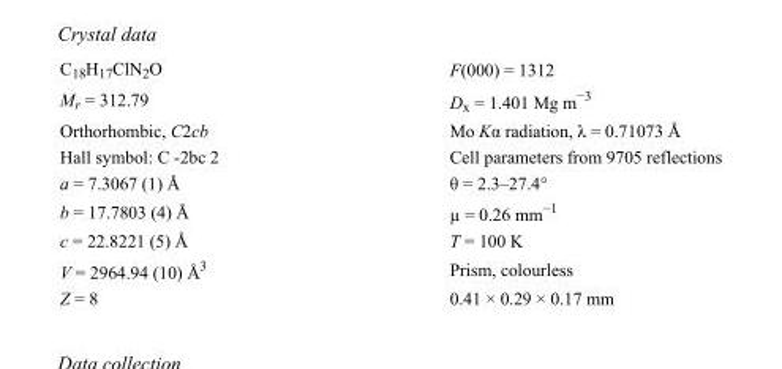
<table><tbody><tr><td>C<sub>18</sub>H<sub>17</sub>ClN<sub>2</sub>O</td><td>F(000) = 1312</td></tr><tr><td>M<sub>r</sub> = 312.79</td><td>D<sub>x</sub> = 1.401 Mg m<sup>−3</sup></td></tr><tr><td>Orthorhombic, C2cb</td><td>Mo Kα radiation, λ = 0.71073 Å</td></tr><tr><td>Hall symbol: C -2bc 2</td><td>Cell parameters from 9705 reflections</td></tr><tr><td>a = 7.3067 (1) Å</td><td>θ = 2.3–27.4°</td></tr><tr><td>b = 17.7803 (4) Å</td><td>µ = 0.26 mm<sup>−1</sup></td></tr><tr><td>c = 22.8221 (5) Å</td><td>T = 100 K</td></tr><tr><td>V = 2964.94 (10) Å<sup>3</sup></td><td>Prism, colourless</td></tr><tr><td>Z = 8</td><td>0.41 × 0.29 × 0.17 mm</td></tr></tbody></table>